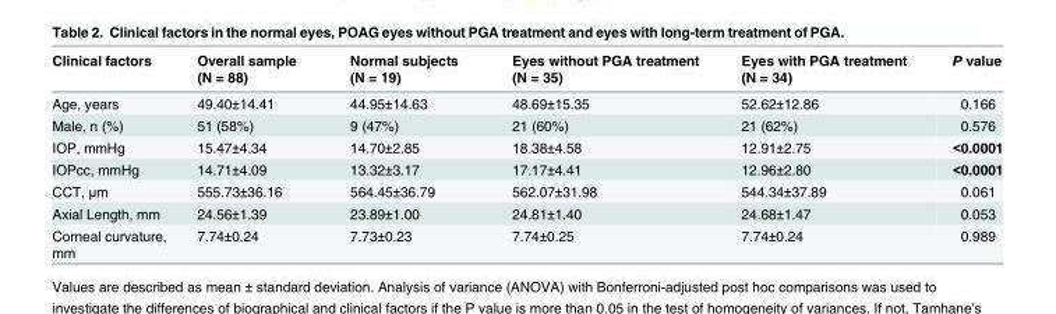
<table><thead><tr><td>Clinical factors</td><td>Overall sample (N = 88)</td><td>Normal subjects (N = 19)</td><td>Eyes without PGA treatment (N = 35)</td><td>Eyes with PGA treatment (N = 34)</td><td>P value</td></tr></thead><tbody><tr><td>Age, years</td><td>49.40±14.41</td><td>44.95±14.63</td><td>48.69±15.35</td><td>52.62±12.86</td><td>0.166</td></tr><tr><td>Male, n (%)</td><td>51 (58%)</td><td>9 (47%)</td><td>21 (60%)</td><td>21 (62%)</td><td>0.576</td></tr><tr><td>IOP, mmHg</td><td>15.47±4.34</td><td>14.70±2.85</td><td>18.38±4.58</td><td>12.91±2.75</td><td>&lt;0.0001</td></tr><tr><td>IOPcc, mmHg</td><td>14.71±4.09</td><td>13.32±3.17</td><td>17.17±4.41</td><td>12.96±2.80</td><td>&lt;0.0001</td></tr><tr><td>CCT, μm</td><td>555.73±36.16</td><td>564.45±36.79</td><td>562.07±31.98</td><td>544.34±37.89</td><td>0.061</td></tr><tr><td>Axial Length, mm</td><td>24.56±1.39</td><td>23.89±1.00</td><td>24.81±1.40</td><td>24.68±1.47</td><td>0.053</td></tr><tr><td>Corneal curvature, mm</td><td>7.74±0.24</td><td>7.73±0.23</td><td>7.74±0.25</td><td>7.74±0.24</td><td>0.989</td></tr></tbody></table>